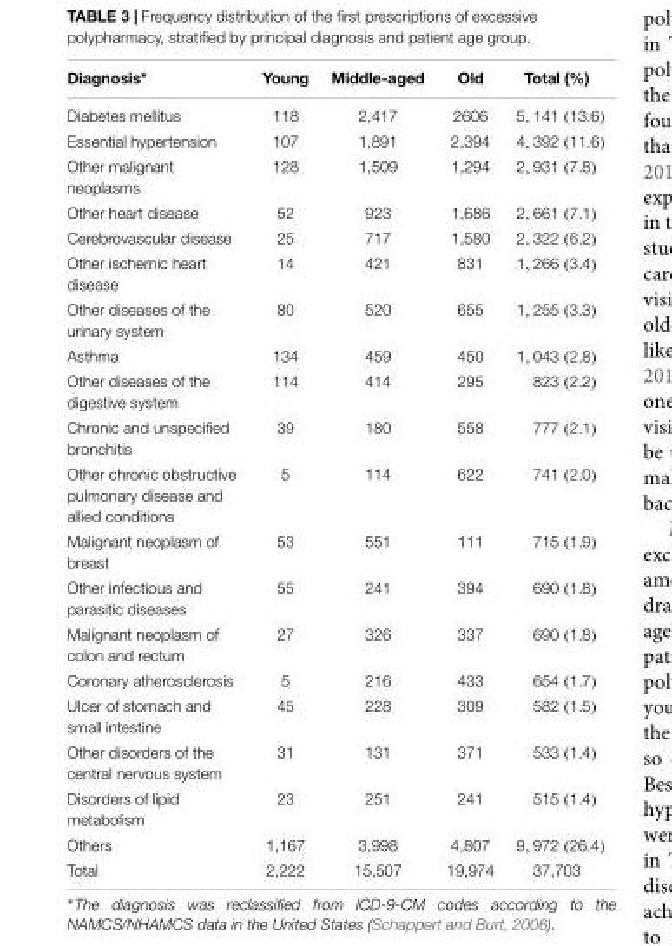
<table><thead><tr><td>Diagnosis∗</td><td>Young</td><td>Middle-aged</td><td>Old</td><td>Total (%)</td></tr></thead><tbody><tr><td>Diabetes mellitus</td><td>118</td><td>2,417</td><td>2606</td><td>5, 141 (13.6)</td></tr><tr><td>Essential hypertension</td><td>107</td><td>1,891</td><td>2,394</td><td>4, 392 (11.6)</td></tr><tr><td>Other malignant neoplasms</td><td>128</td><td>1,509</td><td>1,294</td><td>2, 931 (7.8)</td></tr><tr><td>Other heart disease</td><td>52</td><td>923</td><td>1,686</td><td>2, 661 (7.1)</td></tr><tr><td>Cerebrovascular disease</td><td>25</td><td>717</td><td>1,580</td><td>2, 322 (6.2)</td></tr><tr><td>Other ischemic heart disease</td><td>14</td><td>421</td><td>831</td><td>1, 266 (3.4)</td></tr><tr><td>Other diseases of the urinary system</td><td>80</td><td>520</td><td>655</td><td>1, 255 (3.3)</td></tr><tr><td>Asthma</td><td>134</td><td>459</td><td>450</td><td>1, 043 (2.8)</td></tr><tr><td>Other diseases of the digestive system</td><td>114</td><td>414</td><td>295</td><td>823 (2.2)</td></tr><tr><td>Chronic and unspecified bronchitis</td><td>39</td><td>180</td><td>558</td><td>777 (2.1)</td></tr><tr><td>Other chronic obstructive pulmonary disease and allied conditions</td><td>5</td><td>114</td><td>622</td><td>741 (2.0)</td></tr><tr><td>Malignant neoplasm of breast</td><td>53</td><td>551</td><td>111</td><td>715 (1.9)</td></tr><tr><td>Other infectious and parasitic diseases</td><td>55</td><td>241</td><td>394</td><td>690 (1.8)</td></tr><tr><td>Malignant neoplasm of colon and rectum</td><td>27</td><td>326</td><td>337</td><td>690 (1.8)</td></tr><tr><td>Coronary atherosclerosis</td><td>5</td><td>216</td><td>433</td><td>654 (1.7)</td></tr><tr><td>Ulcer of stomach and small intestine</td><td>45</td><td>228</td><td>309</td><td>582 (1.5)</td></tr><tr><td>Other disorders of the central nervous system</td><td>31</td><td>131</td><td>371</td><td>533 (1.4)</td></tr><tr><td>Disorders of lipid metabolism</td><td>23</td><td>251</td><td>241</td><td>515 (1.4)</td></tr><tr><td>Others</td><td>1,167</td><td>3,998</td><td>4,807</td><td>9, 972 (26.4)</td></tr><tr><td>Total</td><td>2,222</td><td>15,507</td><td>19,974</td><td>37,703</td></tr></tbody></table>